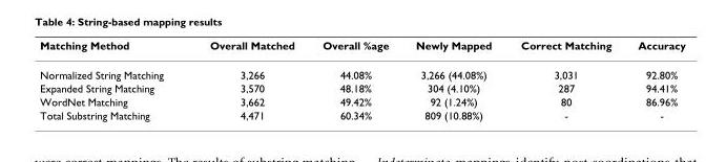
<table><thead><tr><td>Matching Method</td><td>Overall Matched</td><td>Overall %age</td><td>Newly Mapped</td><td>Correct Matching</td><td>Accuracy</td></tr></thead><tbody><tr><td>Normalized String Matching</td><td>3,266</td><td>44.08%</td><td>3,266 (44.08%)</td><td>3,031</td><td>92.80%</td></tr><tr><td>Expanded String Matching</td><td>3,570</td><td>48.18%</td><td>304 (4.10%)</td><td>287</td><td>94.41%</td></tr><tr><td>WordNet Matching</td><td>3,662</td><td>49.42%</td><td>92 (1.24%)</td><td>80</td><td>86.96%</td></tr><tr><td>Total Substring Matching</td><td>4,471</td><td>60.34%</td><td>809 (10.88%)</td><td>-</td><td>-</td></tr></tbody></table>